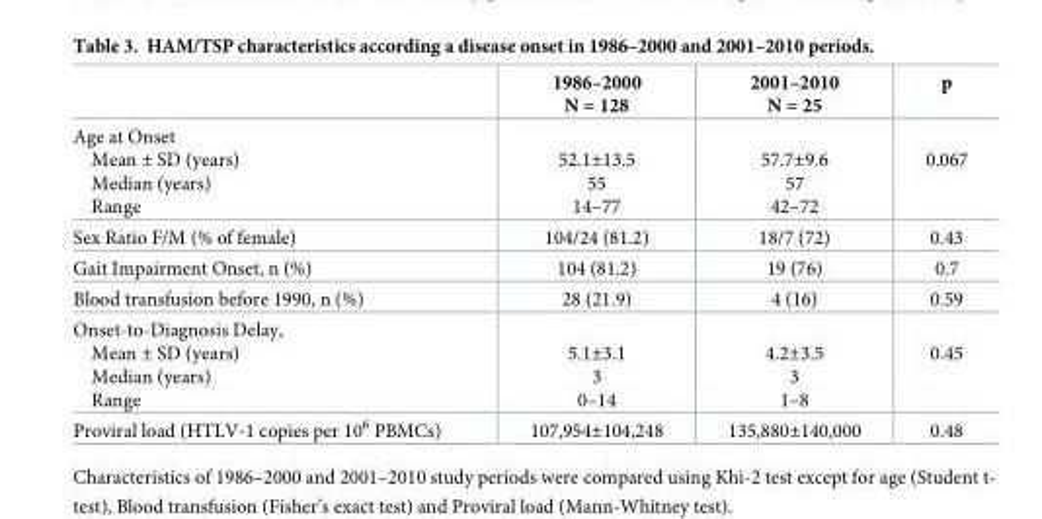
<table><thead><tr><td></td><td>1986–2000 N = 128</td><td>2001–2010 N = 25</td><td>p</td></tr></thead><tbody><tr><td>Age at Onset Mean ± SD (years) Median (years) Range</td><td>52.1±13.5 55 14–77</td><td>57.7±9.6 57 42–72</td><td>0.067</td></tr><tr><td>Sex Ratio F/M (% of female)</td><td>104/24 (81.2)</td><td>18/7 (72)</td><td>0.43</td></tr><tr><td>Gait Impairment Onset, n (%)</td><td>104 (81.2)</td><td>19 (76)</td><td>0.7</td></tr><tr><td>Blood transfusion before 1990, n (%)</td><td>28 (21.9)</td><td>4 (16)</td><td>0.59</td></tr><tr><td>Onset-to-Diagnosis Delay, Mean ± SD (years) Median (years) Range</td><td>5.1±3.1 3 0–14</td><td>4.2±3.5 3 1–8</td><td>0.45</td></tr><tr><td>Proviral load (HTLV-1 copies per 10<sup>6</sup> PBMCs)</td><td>107,954±104,248</td><td>135,880±140,000</td><td>0.48</td></tr></tbody></table>